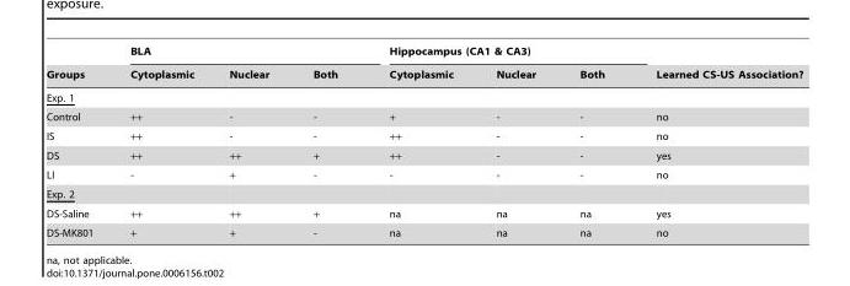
<table><thead><tr><td rowspan="2">Groups</td><td colspan="3">BLA</td><td colspan="3">Hippocampus (CA1 &amp; CA3)</td><td rowspan="2">Learned CS-US Association?</td></tr><tr><td>Cytoplasmic</td><td>Nuclear</td><td>Both</td><td>Cytoplasmic</td><td>Nuclear</td><td>Both</td></tr></thead><tbody><tr><td colspan="8">Exp. 1</td></tr><tr><td>Control</td><td>++</td><td>-</td><td>-</td><td>+</td><td>-</td><td>-</td><td>no</td></tr><tr><td>IS</td><td>++</td><td>-</td><td>-</td><td>++</td><td>-</td><td>-</td><td>no</td></tr><tr><td>DS</td><td>++</td><td>++</td><td>+</td><td>++</td><td>-</td><td>-</td><td>yes</td></tr><tr><td>LI</td><td>-</td><td>+</td><td>-</td><td>-</td><td>-</td><td>-</td><td>no</td></tr><tr><td colspan="8">Exp. 2</td></tr><tr><td>DS-Saline</td><td>++</td><td>++</td><td>+</td><td>na</td><td>na</td><td>na</td><td>yes</td></tr><tr><td>DS-MK801</td><td>+</td><td>+</td><td>-</td><td>na</td><td>na</td><td>na</td><td>no</td></tr></tbody></table>